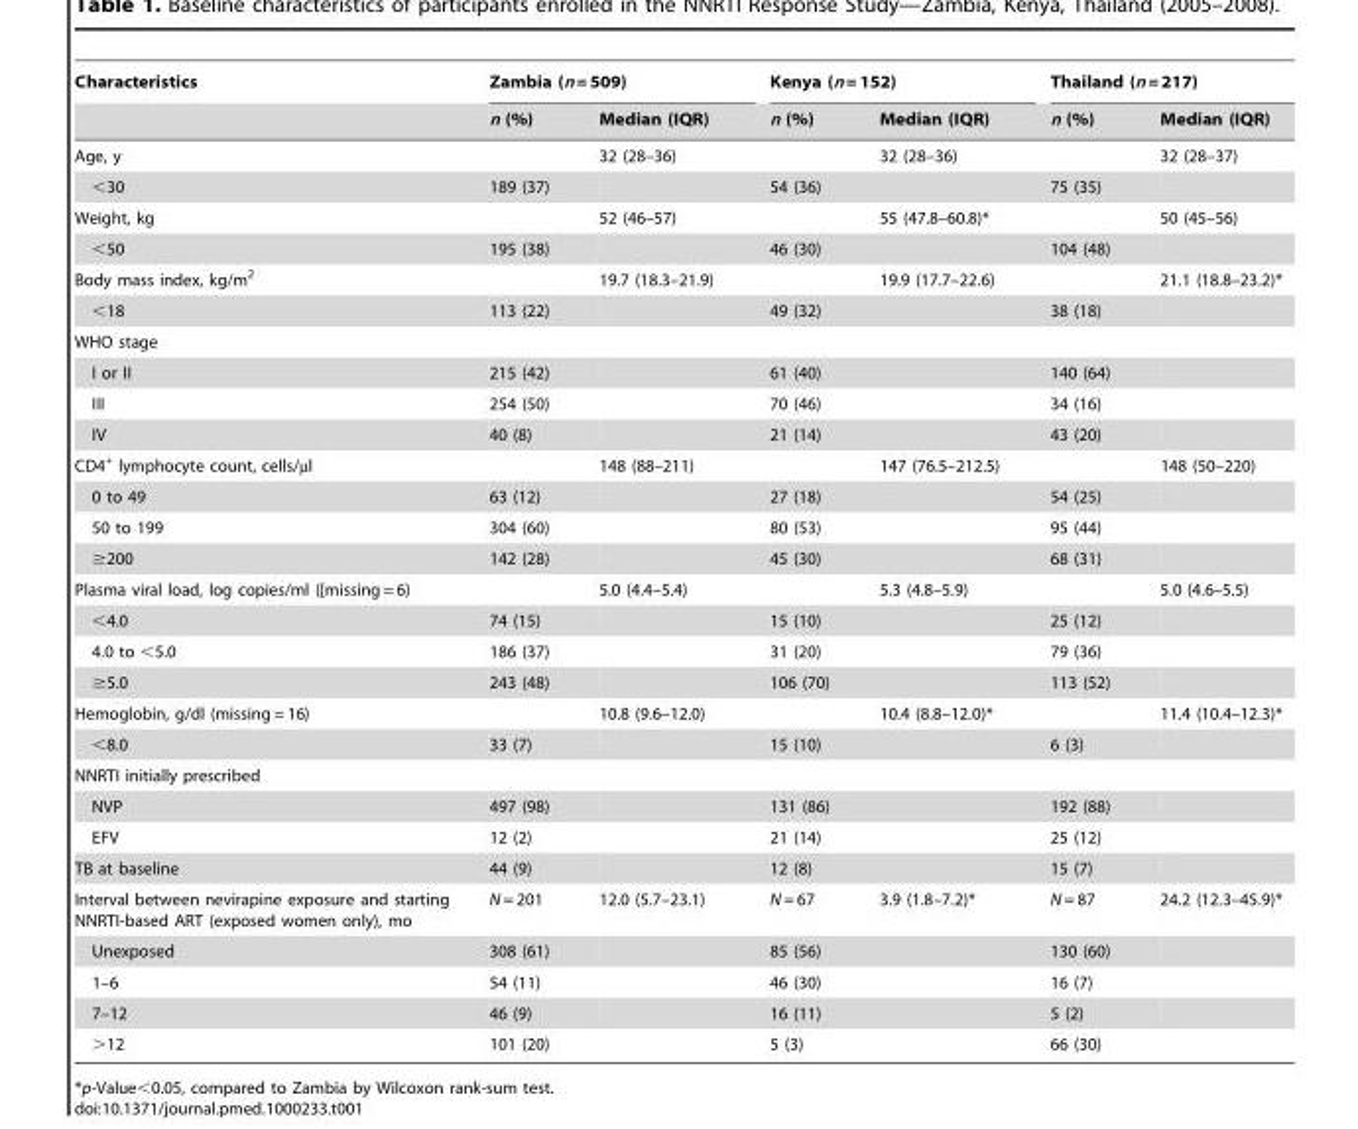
<table><thead><tr><td rowspan="2">Characteristics</td><td colspan="2">Zambia (n = 509)</td><td colspan="2">Kenya (n = 152)</td><td colspan="2">Thailand (n = 217)</td></tr><tr><td>n (%)</td><td>Median (IQR)</td><td>n (%)</td><td>Median (IQR)</td><td>n (%)</td><td>Median (IQR)</td></tr></thead><tbody><tr><td>Age, y</td><td></td><td>32 (28–36)</td><td></td><td>32 (28–36)</td><td></td><td>32 (28–37)</td></tr><tr><td>&lt;30</td><td>189 (37)</td><td></td><td>54 (36)</td><td></td><td>75 (35)</td><td></td></tr><tr><td>Weight, kg</td><td></td><td>52 (46–57)</td><td></td><td>55 (47.8–60.8)*</td><td></td><td>50 (45–56)</td></tr><tr><td>&lt;50</td><td>195 (38)</td><td></td><td>46 (30)</td><td></td><td>104 (48)</td><td></td></tr><tr><td>Body mass index, kg/m<sup>2</sup></td><td></td><td>19.7 (18.3–21.9)</td><td></td><td>19.9 (17.7–22.6)</td><td></td><td>21.1 (18.8–23.2)*</td></tr><tr><td>&lt;18</td><td>113 (22)</td><td></td><td>49 (32)</td><td></td><td>38 (18)</td><td></td></tr><tr><td colspan="7">WHO stage</td></tr><tr><td>I or II</td><td>215 (42)</td><td></td><td>61 (40)</td><td></td><td>140 (64)</td><td></td></tr><tr><td>III</td><td>254 (50)</td><td></td><td>70 (46)</td><td></td><td>34 (16)</td><td></td></tr><tr><td>IV</td><td>40 (8)</td><td></td><td>21 (14)</td><td></td><td>43 (20)</td><td></td></tr><tr><td>CD4<sup>+</sup> lymphocyte count, cells/µl</td><td></td><td>148 (88–211)</td><td></td><td>147 (76.5–212.5)</td><td></td><td>148 (50–220)</td></tr><tr><td>0 to 49</td><td>63 (12)</td><td></td><td>27 (18)</td><td></td><td>54 (25)</td><td></td></tr><tr><td>50 to 199</td><td>304 (60)</td><td></td><td>80 (53)</td><td></td><td>95 (44)</td><td></td></tr><tr><td>≥200</td><td>142 (28)</td><td></td><td>45 (30)</td><td></td><td>68 (31)</td><td></td></tr><tr><td>Plasma viral load, log copies/ml ([missing = 6)</td><td></td><td>5.0 (4.4–5.4)</td><td></td><td>5.3 (4.8–5.9)</td><td></td><td>5.0 (4.6–5.5)</td></tr><tr><td>&lt;4.0</td><td>74 (15)</td><td></td><td>15 (10)</td><td></td><td>25 (12)</td><td></td></tr><tr><td>4.0 to &lt;5.0</td><td>186 (37)</td><td></td><td>31 (20)</td><td></td><td>79 (36)</td><td></td></tr><tr><td>≥5.0</td><td>243 (48)</td><td></td><td>106 (70)</td><td></td><td>113 (52)</td><td></td></tr><tr><td>Hemoglobin, g/dl (missing = 16)</td><td></td><td>10.8 (9.6–12.0)</td><td></td><td>10.4 (8.8–12.0)*</td><td></td><td>11.4 (10.4–12.3)*</td></tr><tr><td>&lt;8.0</td><td>33 (7)</td><td></td><td>15 (10)</td><td></td><td>6 (3)</td><td></td></tr><tr><td colspan="7">NNRTI initially prescribed</td></tr><tr><td>NVP</td><td>497 (98)</td><td></td><td>131 (86)</td><td></td><td>192 (88)</td><td></td></tr><tr><td>EFV</td><td>12 (2)</td><td></td><td>21 (14)</td><td></td><td>25 (12)</td><td></td></tr><tr><td>TB at baseline</td><td>44 (9)</td><td></td><td>12 (8)</td><td></td><td>15 (7)</td><td></td></tr><tr><td>Interval between nevirapine exposure and starting NNRTI-based ART (exposed women only), mo</td><td>N = 201</td><td>12.0 (5.7–23.1)</td><td>N = 67</td><td>3.9 (1.8–7.2)*</td><td>N = 87</td><td>24.2 (12.3–45.9)*</td></tr><tr><td>Unexposed</td><td>308 (61)</td><td></td><td>85 (56)</td><td></td><td>130 (60)</td><td></td></tr><tr><td>1–6</td><td>54 (11)</td><td></td><td>46 (30)</td><td></td><td>16 (7)</td><td></td></tr><tr><td>7–12</td><td>46 (9)</td><td></td><td>16 (11)</td><td></td><td>5 (2)</td><td></td></tr><tr><td>&gt;12</td><td>101 (20)</td><td></td><td>5 (3)</td><td></td><td>66 (30)</td><td></td></tr></tbody></table>